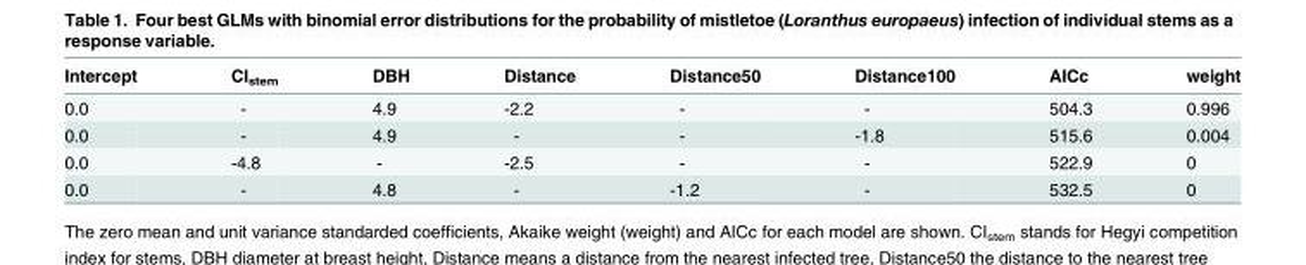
<table><thead><tr><td>Intercept</td><td>CI<sub>stem</sub></td><td>DBH</td><td>Distance</td><td>Distance50</td><td>Distance100</td><td>AICc</td><td>weight</td></tr></thead><tbody><tr><td>0.0</td><td>-</td><td>4.9</td><td>-2.2</td><td>-</td><td>-</td><td>504.3</td><td>0.996</td></tr><tr><td>0.0</td><td>-</td><td>4.9</td><td>-</td><td>-</td><td>-1.8</td><td>515.6</td><td>0.004</td></tr><tr><td>0.0</td><td>-4.8</td><td>-</td><td>-2.5</td><td>-</td><td>-</td><td>522.9</td><td>0</td></tr><tr><td>0.0</td><td>-</td><td>4.8</td><td>-</td><td>-1.2</td><td>-</td><td>532.5</td><td>0</td></tr></tbody></table>